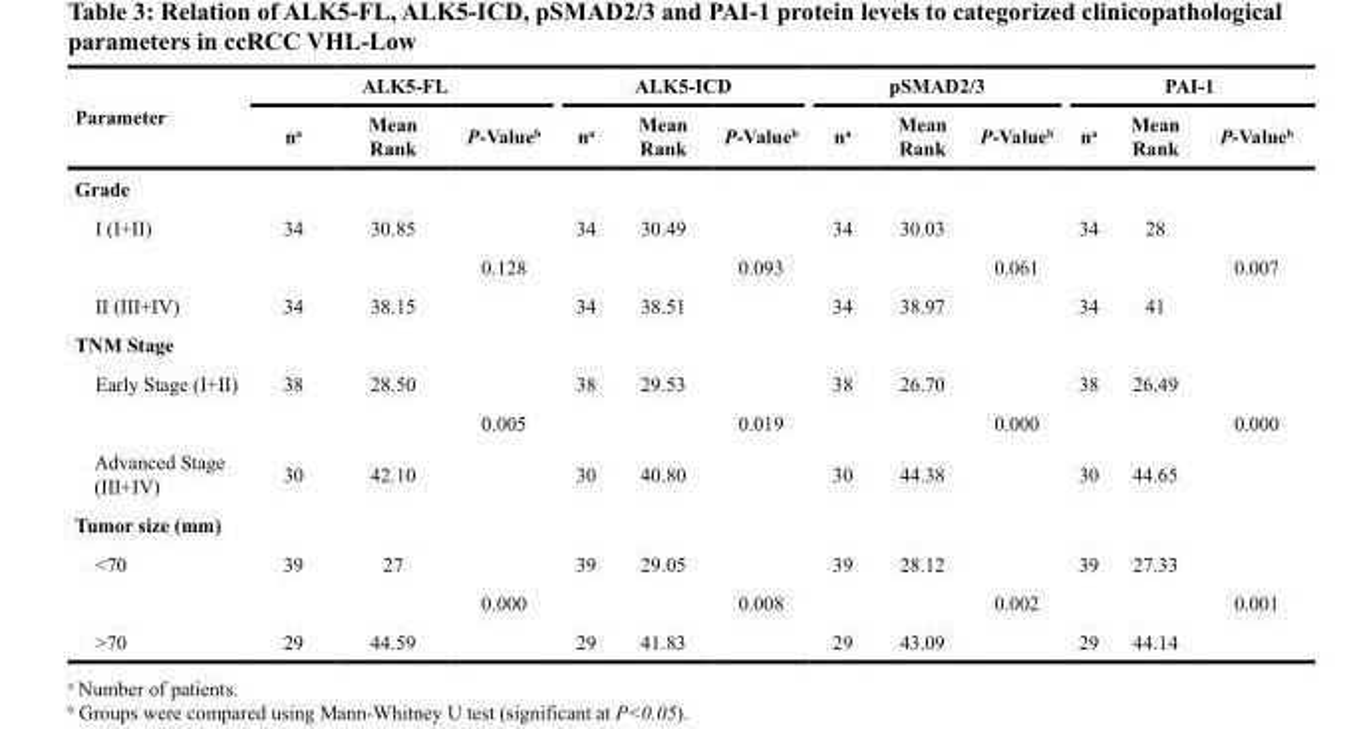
<table><thead><tr><td rowspan="2">Parameter</td><td colspan="3">ALK5-FL</td><td colspan="3">ALK5-ICD</td><td colspan="3">pSMAD2/3</td><td colspan="3">PAI-1</td></tr><tr><td>n<sup>a</sup></td><td>Mean Rank</td><td>P-Value<sup>b</sup></td><td>n<sup>a</sup></td><td>Mean Rank</td><td>P-Value<sup>b</sup></td><td>n<sup>a</sup></td><td>Mean Rank</td><td>P-Value<sup>b</sup></td><td>n<sup>a</sup></td><td>Mean Rank</td><td>P-Value<sup>b</sup></td></tr></thead><tbody><tr><td colspan="13">Grade</td></tr><tr><td rowspan="2">I (I+II)</td><td>34</td><td>30.85</td><td></td><td>34</td><td>30.49</td><td></td><td>34</td><td>30.03</td><td></td><td>34</td><td>28</td><td></td></tr><tr><td></td><td></td><td>0.128</td><td></td><td></td><td>0.093</td><td></td><td></td><td>0.061</td><td></td><td></td><td>0.007</td></tr><tr><td>II (III+IV)</td><td>34</td><td>38.15</td><td></td><td>34</td><td>38.51</td><td></td><td>34</td><td>38.97</td><td></td><td>34</td><td>41</td><td></td></tr><tr><td colspan="13">TNM Stage</td></tr><tr><td rowspan="2">Early Stage (I+II)</td><td>38</td><td>28.50</td><td></td><td>38</td><td>29.53</td><td></td><td>38</td><td>26.70</td><td></td><td>38</td><td>26.49</td><td></td></tr><tr><td></td><td></td><td>0.005</td><td></td><td></td><td>0.019</td><td></td><td></td><td>0.000</td><td></td><td></td><td>0.000</td></tr><tr><td>Advanced Stage (III+IV)</td><td>30</td><td>42.10</td><td></td><td>30</td><td>40.80</td><td></td><td>30</td><td>44.38</td><td></td><td>30</td><td>44.65</td><td></td></tr><tr><td colspan="13">Tumor size (mm)</td></tr><tr><td rowspan="2">&lt;70</td><td>39</td><td>27</td><td></td><td>39</td><td>29.05</td><td></td><td>39</td><td>28.12</td><td></td><td>39</td><td>27.33</td><td></td></tr><tr><td></td><td></td><td>0.000</td><td></td><td></td><td>0.008</td><td></td><td></td><td>0.002</td><td></td><td></td><td>0.001</td></tr><tr><td>&gt;70</td><td>29</td><td>44.59</td><td></td><td>29</td><td>41.83</td><td></td><td>29</td><td>43.09</td><td></td><td>29</td><td>44.14</td><td></td></tr></tbody></table>